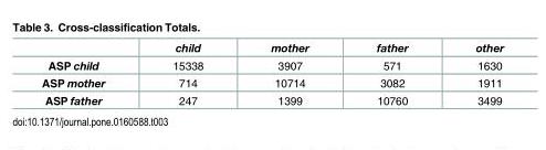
<table><thead><tr><td></td><td>child</td><td>mother</td><td>father</td><td>other</td></tr></thead><tbody><tr><td>ASP child</td><td>15338</td><td>3907</td><td>571</td><td>1630</td></tr><tr><td>ASP mother</td><td>714</td><td>10714</td><td>3082</td><td>1911</td></tr><tr><td>ASP father</td><td>247</td><td>1399</td><td>10760</td><td>3499</td></tr></tbody></table>